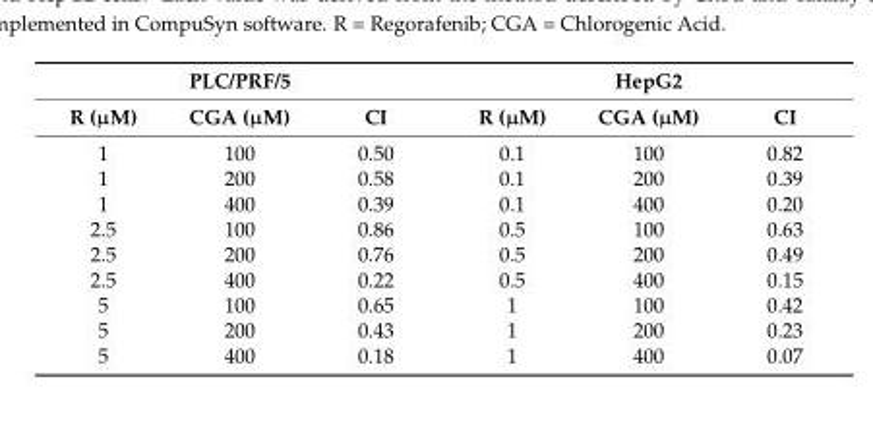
<table><thead><tr><td colspan="3">PLC/PRF/5</td><td colspan="3">HepG2</td></tr><tr><td>R (µM)</td><td>CGA (µM)</td><td>CI</td><td>R (µM)</td><td>CGA (µM)</td><td>CI</td></tr></thead><tbody><tr><td>1</td><td>100</td><td>0.50</td><td>0.1</td><td>100</td><td>0.82</td></tr><tr><td>1</td><td>200</td><td>0.58</td><td>0.1</td><td>200</td><td>0.39</td></tr><tr><td>1</td><td>400</td><td>0.39</td><td>0.1</td><td>400</td><td>0.20</td></tr><tr><td>2.5</td><td>100</td><td>0.86</td><td>0.5</td><td>100</td><td>0.63</td></tr><tr><td>2.5</td><td>200</td><td>0.76</td><td>0.5</td><td>200</td><td>0.49</td></tr><tr><td>2.5</td><td>400</td><td>0.22</td><td>0.5</td><td>400</td><td>0.15</td></tr><tr><td>5</td><td>100</td><td>0.65</td><td>1</td><td>100</td><td>0.42</td></tr><tr><td>5</td><td>200</td><td>0.43</td><td>1</td><td>200</td><td>0.23</td></tr><tr><td>5</td><td>400</td><td>0.18</td><td>1</td><td>400</td><td>0.07</td></tr></tbody></table>